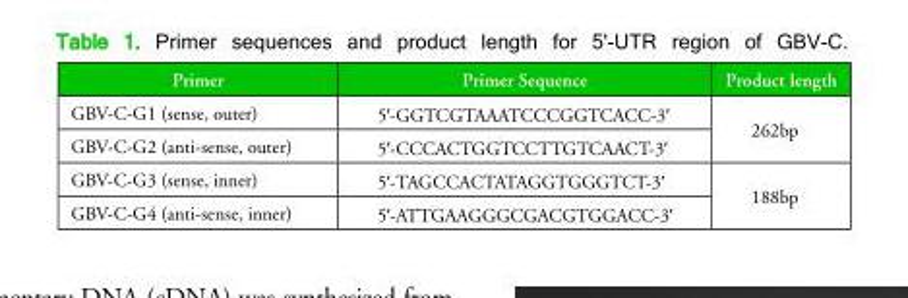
<table><thead><tr><td>Primer</td><td>Primer Sequence</td><td>Product length</td></tr></thead><tbody><tr><td>GBV-C-G1 (sense, outer)</td><td>5’-GGTCGTAAATCCCGGTCACC-3’</td><td rowspan="2">262bp</td></tr><tr><td>GBV-C-G2 (anti-sense, outer)</td><td>5’-CCCACTGGTCCTTGTCAACT-3’</td></tr><tr><td>GBV-C-G3 (sense, inner)</td><td>5’-TAGCCACTATAGGTGGGTCT-3’</td><td rowspan="2">188bp</td></tr><tr><td>GBV-C-G4 (anti-sense, inner)</td><td>5’-ATTGAAGGGCGACGTGGACC-3’</td></tr></tbody></table>